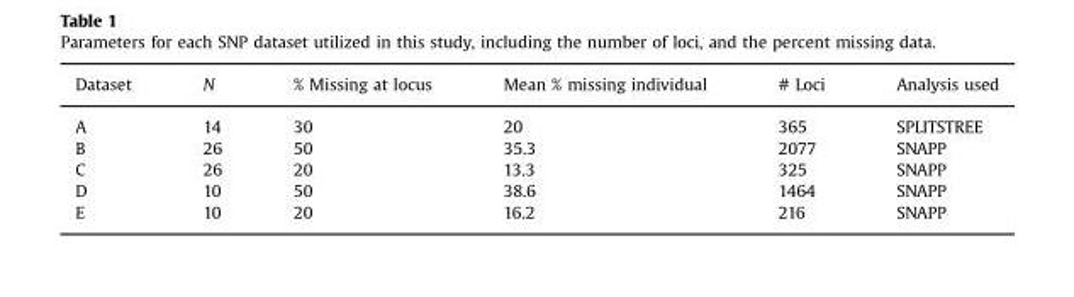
<table><thead><tr><td>Dataset</td><td>N</td><td>% Missing at locus</td><td>Mean % missing individual</td><td># Loci</td><td>Analysis used</td></tr></thead><tbody><tr><td>A</td><td>14</td><td>30</td><td>20</td><td>365</td><td>SPLITSTREE</td></tr><tr><td>B</td><td>26</td><td>50</td><td>35.3</td><td>2077</td><td>SNAPP</td></tr><tr><td>C</td><td>26</td><td>20</td><td>13.3</td><td>325</td><td>SNAPP</td></tr><tr><td>D</td><td>10</td><td>50</td><td>38.6</td><td>1464</td><td>SNAPP</td></tr><tr><td>E</td><td>10</td><td>20</td><td>16.2</td><td>216</td><td>SNAPP</td></tr></tbody></table>